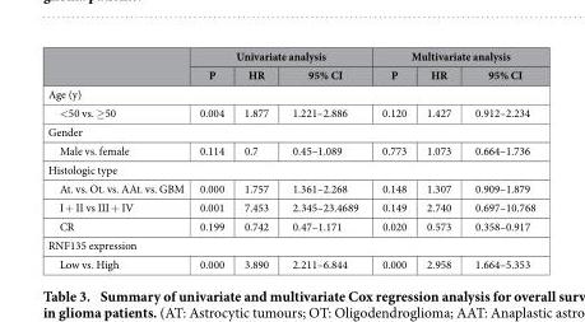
<table><thead><tr><td rowspan="2"></td><td colspan="3">Univariate analysis</td><td colspan="3">Multivariate analysis</td></tr><tr><td>P</td><td>HR</td><td>95% CI</td><td>P</td><td>HR</td><td>95% CI</td></tr></thead><tbody><tr><td colspan="7">Age (y)</td></tr><tr><td>&lt;50 vs. ≥50</td><td>0.004</td><td>1.877</td><td>1.221–2.886</td><td>0.120</td><td>1.427</td><td>0.912–2.234</td></tr><tr><td colspan="7">Gender</td></tr><tr><td>Male vs. female</td><td>0.114</td><td>0.7</td><td>0.45–1.089</td><td>0.773</td><td>1.073</td><td>0.664–1.736</td></tr><tr><td colspan="7">Histologic type</td></tr><tr><td>At. vs. Ot. vs. AAt. vs. GBM</td><td>0.000</td><td>1.757</td><td>1.361–2.268</td><td>0.148</td><td>1.307</td><td>0.909–1.879</td></tr><tr><td>I + II vs III + IV</td><td>0.001</td><td>7.453</td><td>2.345–23.4689</td><td>0.149</td><td>2.740</td><td>0.697–10.768</td></tr><tr><td>CR</td><td>0.199</td><td>0.742</td><td>0.47–1.171</td><td>0.020</td><td>0.573</td><td>0.358–0.917</td></tr><tr><td colspan="7">RNF135 expression</td></tr><tr><td>Low vs. High</td><td>0.000</td><td>3.890</td><td>2.211–6.844</td><td>0.000</td><td>2.958</td><td>1.664–5.353</td></tr></tbody></table>